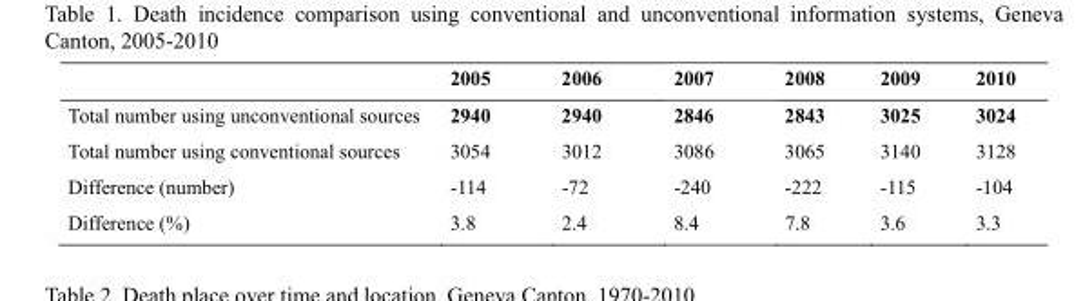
<table><thead><tr><td></td><td>2005</td><td>2006</td><td>2007</td><td>2008</td><td>2009</td><td>2010</td></tr></thead><tbody><tr><td>Total number using unconventional sources</td><td>2940</td><td>2940</td><td>2846</td><td>2843</td><td>3025</td><td>3024</td></tr><tr><td>Total number using conventional sources</td><td>3054</td><td>3012</td><td>3086</td><td>3065</td><td>3140</td><td>3128</td></tr><tr><td>Difference (number)</td><td>-114</td><td>-72</td><td>-240</td><td>-222</td><td>-115</td><td>-104</td></tr><tr><td>Difference (%)</td><td>3.8</td><td>2.4</td><td>8.4</td><td>7.8</td><td>3.6</td><td>3.3</td></tr></tbody></table>